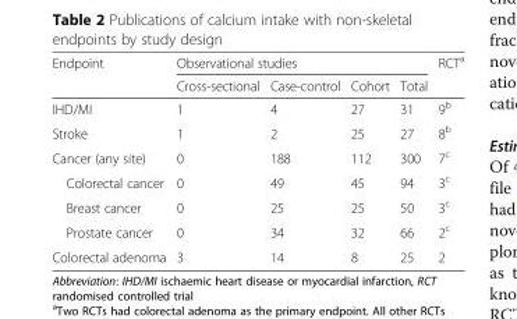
<table><thead><tr><td rowspan="2">Endpoint</td><td colspan="4">Observational studies</td><td rowspan="2">RCT<sup>a</sup></td></tr><tr><td>Cross-sectional</td><td>Case-control</td><td>Cohort</td><td>Total</td></tr></thead><tbody><tr><td>IHD/MI</td><td>1</td><td>4</td><td>27</td><td>31</td><td>9<sup>b</sup></td></tr><tr><td>Stroke</td><td>1</td><td>2</td><td>25</td><td>27</td><td>8<sup>b</sup></td></tr><tr><td>Cancer (any site)</td><td>0</td><td>188</td><td>112</td><td>300</td><td>7<sup>c</sup></td></tr><tr><td>Colorectal cancer</td><td>0</td><td>49</td><td>45</td><td>94</td><td>3<sup>c</sup></td></tr><tr><td>Breast cancer</td><td>0</td><td>25</td><td>25</td><td>50</td><td>3<sup>c</sup></td></tr><tr><td>Prostate cancer</td><td>0</td><td>34</td><td>32</td><td>66</td><td>2<sup>c</sup></td></tr><tr><td>Colorectal adenoma</td><td>3</td><td>14</td><td>8</td><td>25</td><td>2</td></tr></tbody></table>